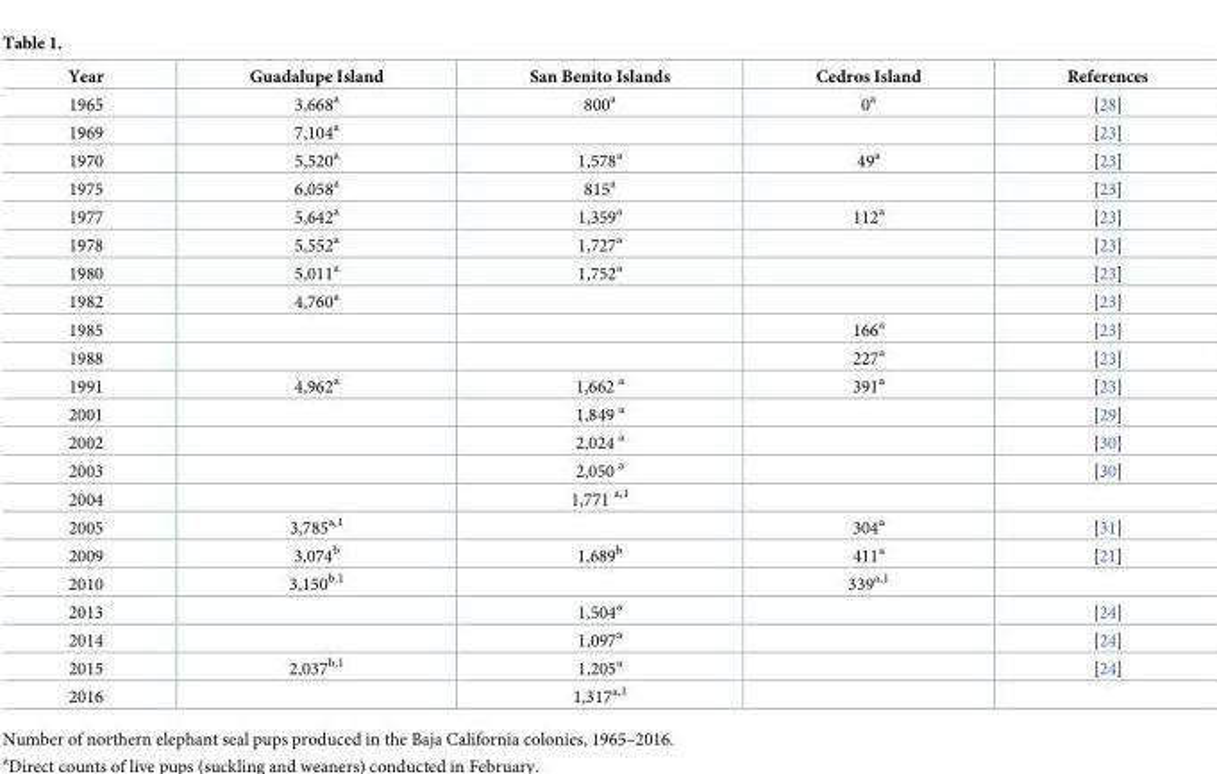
<table><thead><tr><td>Year</td><td>Guadalupe Island</td><td>San Benito Islands</td><td>Cedros Island</td><td>References</td></tr></thead><tbody><tr><td>1965</td><td>3,668<sup>a</sup></td><td>800<sup>a</sup></td><td>0<sup>a</sup></td><td>[28]</td></tr><tr><td>1969</td><td>7,104<sup>a</sup></td><td></td><td></td><td>[23]</td></tr><tr><td>1970</td><td>5,520<sup>a</sup></td><td>1,578<sup>a</sup></td><td>49<sup>a</sup></td><td>[23]</td></tr><tr><td>1975</td><td>6,058<sup>a</sup></td><td>815<sup>a</sup></td><td></td><td>[23]</td></tr><tr><td>1977</td><td>5,642<sup>a</sup></td><td>1,359<sup>a</sup></td><td>112<sup>a</sup></td><td>[23]</td></tr><tr><td>1978</td><td>5,552<sup>a</sup></td><td>1,727<sup>a</sup></td><td></td><td>[23]</td></tr><tr><td>1980</td><td>5,011<sup>a</sup></td><td>1,752<sup>a</sup></td><td></td><td>[23]</td></tr><tr><td>1982</td><td>4,760<sup>a</sup></td><td></td><td></td><td>[23]</td></tr><tr><td>1985</td><td></td><td></td><td>166<sup>a</sup></td><td>[23]</td></tr><tr><td>1988</td><td></td><td></td><td>227<sup>a</sup></td><td>[23]</td></tr><tr><td>1991</td><td>4,962<sup>a</sup></td><td>1,662 <sup>a</sup></td><td>391<sup>a</sup></td><td>[23]</td></tr><tr><td>2001</td><td></td><td>1,849 <sup>a</sup></td><td></td><td>[29]</td></tr><tr><td>2002</td><td></td><td>2,024 <sup>a</sup></td><td></td><td>[30]</td></tr><tr><td>2003</td><td></td><td>2,050 <sup>a</sup></td><td></td><td>[30]</td></tr><tr><td>2004</td><td></td><td>1,771 <sup>a,1</sup></td><td></td><td></td></tr><tr><td>2005</td><td>3,785<sup>a,1</sup></td><td></td><td>304<sup>a</sup></td><td>[31]</td></tr><tr><td>2009</td><td>3,074<sup>b</sup></td><td>1,689<sup>b</sup></td><td>411<sup>a</sup></td><td>[21]</td></tr><tr><td>2010</td><td>3,150<sup>b,1</sup></td><td></td><td>339<sup>a,1</sup></td><td></td></tr><tr><td>2013</td><td></td><td>1,504<sup>a</sup></td><td></td><td>[24]</td></tr><tr><td>2014</td><td></td><td>1,097<sup>a</sup></td><td></td><td>[24]</td></tr><tr><td>2015</td><td>2,037<sup>b,1</sup></td><td>1,205<sup>a</sup></td><td></td><td>[24]</td></tr><tr><td>2016</td><td></td><td>1,317<sup>a,1</sup></td><td></td><td></td></tr></tbody></table>